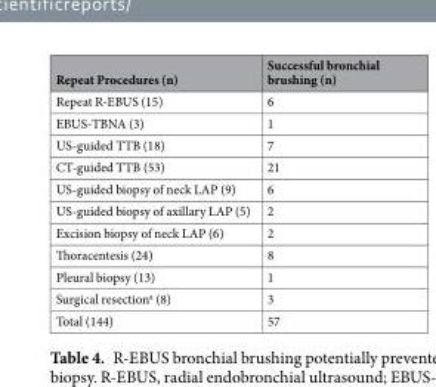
<table><thead><tr><td>Repeat Procedures (n)</td><td>Successful bronchial brushing (n)</td></tr></thead><tbody><tr><td>Repeat R-EBUS (15)</td><td>6</td></tr><tr><td>EBUS-TBNA (3)</td><td>1</td></tr><tr><td>US-guided TTB (18)</td><td>7</td></tr><tr><td>CT-guided TTB (53)</td><td>21</td></tr><tr><td>US-guided biopsy of neck LAP (9)</td><td>6</td></tr><tr><td>US-guided biopsy of axillary LAP (5)</td><td>2</td></tr><tr><td>Excision biopsy of neck LAP (6)</td><td>2</td></tr><tr><td>Thoracentesis (24)</td><td>8</td></tr><tr><td>Pleural biopsy (13)</td><td>1</td></tr><tr><td>Surgical resection<sup>a</sup> (8)</td><td>3</td></tr><tr><td>Total (144)</td><td>57</td></tr></tbody></table>